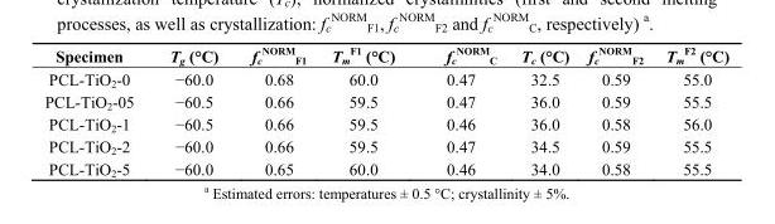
<table><thead><tr><td>Specimen</td><td>T<sub>g</sub> (°C)</td><td>f<sub>c</sub> <sup>NORM</sup> <sub>F1</sub></td><td>T<sub>m</sub> <sup>F1</sup> (°C)</td><td>f<sub>c</sub> <sup>NORM</sup> <sub>C</sub></td><td>T<sub>c</sub> (°C)</td><td>f<sub>c</sub> <sup>NORM</sup> <sub>F2</sub></td><td>T<sub>m</sub> <sup>F2</sup> (°C)</td></tr></thead><tbody><tr><td>PCL-TiO<sub>2</sub>-0</td><td>−60.0</td><td>0.68</td><td>60.0</td><td>0.47</td><td>32.5</td><td>0.59</td><td>55.0</td></tr><tr><td>PCL-TiO<sub>2</sub>-05</td><td>−60.5</td><td>0.66</td><td>59.5</td><td>0.47</td><td>36.0</td><td>0.59</td><td>55.5</td></tr><tr><td>PCL-TiO<sub>2</sub>-1</td><td>−60.5</td><td>0.66</td><td>59.5</td><td>0.46</td><td>36.0</td><td>0.58</td><td>56.0</td></tr><tr><td>PCL-TiO<sub>2</sub>-2</td><td>−60.0</td><td>0.66</td><td>59.5</td><td>0.47</td><td>34.5</td><td>0.59</td><td>55.5</td></tr><tr><td>PCL-TiO<sub>2</sub>-5</td><td>−60.0</td><td>0.65</td><td>60.0</td><td>0.46</td><td>34.0</td><td>0.58</td><td>55.5</td></tr></tbody></table>